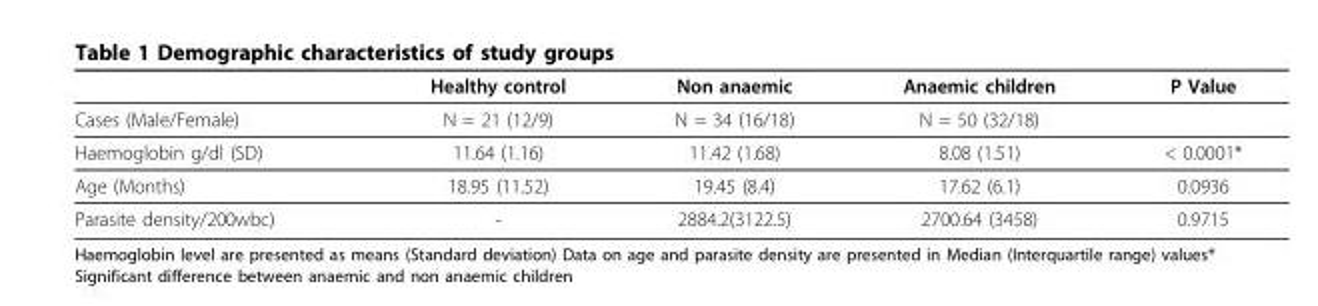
<table><thead><tr><td></td><td>Healthy control</td><td>Non anaemic</td><td>Anaemic children</td><td>P Value</td></tr></thead><tbody><tr><td>Cases (Male/Female)</td><td>N = 21 (12/9)</td><td>N = 34 (16/18)</td><td>N = 50 (32/18)</td><td></td></tr><tr><td>Haemoglobin g/dl (SD)</td><td>11.64 (1.16)</td><td>11.42 (1.68)</td><td>8.08 (1.51)</td><td>&lt; 0.0001*</td></tr><tr><td>Age (Months)</td><td>18.95 (11.52)</td><td>19.45 (8.4)</td><td>17.62 (6.1)</td><td>0.0936</td></tr><tr><td>Parasite density/200wbc)</td><td>-</td><td>2884.2(3122.5)</td><td>2700.64 (3458)</td><td>0.9715</td></tr></tbody></table>